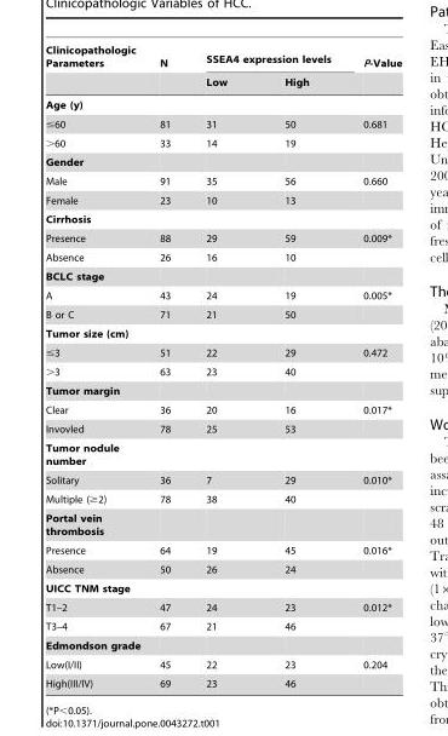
<table><thead><tr><td rowspan="2">Clinicopathologic Parameters</td><td rowspan="2">N</td><td colspan="2">SSEA4 expression levels</td><td rowspan="2">P-Value</td></tr><tr><td>Low</td><td>High</td></tr></thead><tbody><tr><td colspan="5">Age (y)</td></tr><tr><td>≤60</td><td>81</td><td>31</td><td>50</td><td>0.681</td></tr><tr><td>&gt;60</td><td>33</td><td>14</td><td>19</td><td></td></tr><tr><td colspan="5">Gender</td></tr><tr><td>Male</td><td>91</td><td>35</td><td>56</td><td>0.660</td></tr><tr><td>Female</td><td>23</td><td>10</td><td>13</td><td></td></tr><tr><td colspan="5">Cirrhosis</td></tr><tr><td>Presence</td><td>88</td><td>29</td><td>59</td><td>0.009*</td></tr><tr><td>Absence</td><td>26</td><td>16</td><td>10</td><td></td></tr><tr><td colspan="5">BCLC stage</td></tr><tr><td>A</td><td>43</td><td>24</td><td>19</td><td>0.005*</td></tr><tr><td>B or C</td><td>71</td><td>21</td><td>50</td><td></td></tr><tr><td colspan="5">Tumor size (cm)</td></tr><tr><td>≤3</td><td>51</td><td>22</td><td>29</td><td>0.472</td></tr><tr><td>&gt;3</td><td>63</td><td>23</td><td>40</td><td></td></tr><tr><td colspan="5">Tumor margin</td></tr><tr><td>Clear</td><td>36</td><td>20</td><td>16</td><td>0.017*</td></tr><tr><td>Invovled</td><td>78</td><td>25</td><td>53</td><td></td></tr><tr><td colspan="5">Tumor nodule number</td></tr><tr><td>Solitary</td><td>36</td><td>7</td><td>29</td><td>0.010*</td></tr><tr><td>Multiple (≥2)</td><td>78</td><td>38</td><td>40</td><td></td></tr><tr><td colspan="5">Portal vein thrombosis</td></tr><tr><td>Presence</td><td>64</td><td>19</td><td>45</td><td>0.016*</td></tr><tr><td>Absence</td><td>50</td><td>26</td><td>24</td><td></td></tr><tr><td colspan="5">UICC TNM stage</td></tr><tr><td>T1–2</td><td>47</td><td>24</td><td>23</td><td>0.012*</td></tr><tr><td>T3–4</td><td>67</td><td>21</td><td>46</td><td></td></tr><tr><td colspan="5">Edmondson grade</td></tr><tr><td>Low(I/II)</td><td>45</td><td>22</td><td>23</td><td>0.204</td></tr><tr><td>High(III/IV)</td><td>69</td><td>23</td><td>46</td><td></td></tr></tbody></table>